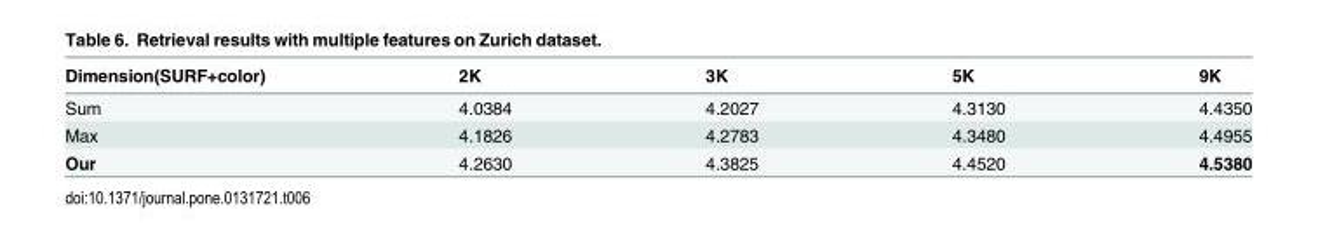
<table><thead><tr><td>Dimension(SURF+color)</td><td>2K</td><td>3K</td><td>5K</td><td>9K</td></tr></thead><tbody><tr><td>Sum</td><td>4.0384</td><td>4.2027</td><td>4.3130</td><td>4.4350</td></tr><tr><td>Max</td><td>4.1826</td><td>4.2783</td><td>4.3480</td><td>4.4955</td></tr><tr><td>Our</td><td>4.2630</td><td>4.3825</td><td>4.4520</td><td>4.5380</td></tr></tbody></table>